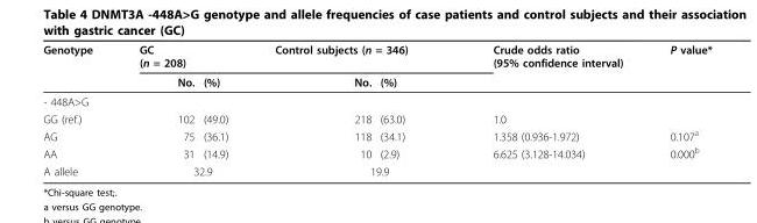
<table><thead><tr><td rowspan="2">Genotype</td><td colspan="2">GC (n = 208)</td><td colspan="2">Control subjects (n = 346)</td><td rowspan="2">Crude odds ratio (95% confidence interval)</td><td rowspan="2">P value*</td></tr><tr><td>No.</td><td>(%)</td><td>No.</td><td>(%)</td></tr></thead><tbody><tr><td colspan="7">- 448A&gt;G</td></tr><tr><td>GG (ref.)</td><td>102</td><td>(49.0)</td><td>218</td><td>(63.0)</td><td>1.0</td><td></td></tr><tr><td>AG</td><td>75</td><td>(36.1)</td><td>118</td><td>(34.1)</td><td>1.358 (0.936-1.972)</td><td>0.107<sup>a</sup></td></tr><tr><td>AA</td><td>31</td><td>(14.9)</td><td>10</td><td>(2.9)</td><td>6.625 (3.128-14.034)</td><td>0.000<sup>b</sup></td></tr><tr><td>A allele</td><td colspan="2">32.9</td><td colspan="2">19.9</td><td></td><td></td></tr></tbody></table>